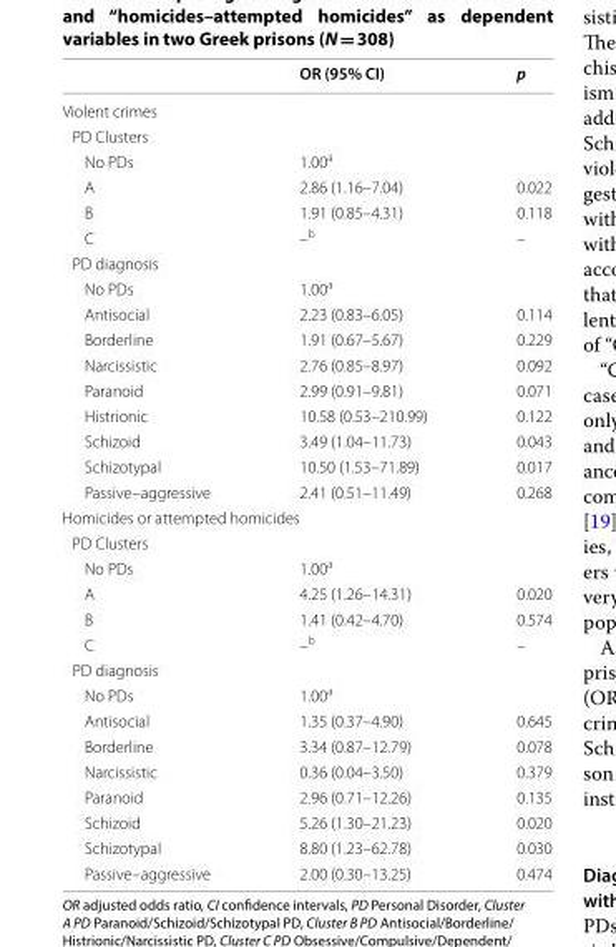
<table><thead><tr><td></td><td>OR (95% CI)</td><td>p</td></tr></thead><tbody><tr><td colspan="3">Violent crimes</td></tr><tr><td colspan="3">PD Clusters</td></tr><tr><td>No PDs</td><td>1.00<sup>a</sup></td><td></td></tr><tr><td>A</td><td>2.86 (1.16–7.04)</td><td>0.022</td></tr><tr><td>B</td><td>1.91 (0.85–4.31)</td><td>0.118</td></tr><tr><td>C</td><td>–<sup>b</sup></td><td>–</td></tr><tr><td colspan="3">PD diagnosis</td></tr><tr><td>No PDs</td><td>1.00<sup>a</sup></td><td></td></tr><tr><td>Antisocial</td><td>2.23 (0.83–6.05)</td><td>0.114</td></tr><tr><td>Borderline</td><td>1.91 (0.67–5.67)</td><td>0.229</td></tr><tr><td>Narcissistic</td><td>2.76 (0.85–8.97)</td><td>0.092</td></tr><tr><td>Paranoid</td><td>2.99 (0.91–9.81)</td><td>0.071</td></tr><tr><td>Histrionic</td><td>10.58 (0.53–210.99)</td><td>0.122</td></tr><tr><td>Schizoid</td><td>3.49 (1.04–11.73)</td><td>0.043</td></tr><tr><td>Schizotypal</td><td>10.50 (1.53–71.89)</td><td>0.017</td></tr><tr><td>Passive–aggressive</td><td>2.41 (0.51–11.49)</td><td>0.268</td></tr><tr><td colspan="3">Homicides or attempted homicides</td></tr><tr><td colspan="3">PD Clusters</td></tr><tr><td>No PDs</td><td>1.00<sup>a</sup></td><td></td></tr><tr><td>A</td><td>4.25 (1.26–14.31)</td><td>0.020</td></tr><tr><td>B</td><td>1.41 (0.42–4.70)</td><td>0.574</td></tr><tr><td>C</td><td>–<sup>b</sup></td><td>–</td></tr><tr><td colspan="3">PD diagnosis</td></tr><tr><td>No PDs</td><td>1.00<sup>a</sup></td><td></td></tr><tr><td>Antisocial</td><td>1.35 (0.37–4.90)</td><td>0.645</td></tr><tr><td>Borderline</td><td>3.34 (0.87–12.79)</td><td>0.078</td></tr><tr><td>Narcissistic</td><td>0.36 (0.04–3.50)</td><td>0.379</td></tr><tr><td>Paranoid</td><td>2.96 (0.71–12.26)</td><td>0.135</td></tr><tr><td>Schizoid</td><td>5.26 (1.30–21.23)</td><td>0.020</td></tr><tr><td>Schizotypal</td><td>8.80 (1.23–62.78)</td><td>0.030</td></tr><tr><td>Passive–aggressive</td><td>2.00 (0.30–13.25)</td><td>0.474</td></tr></tbody></table>